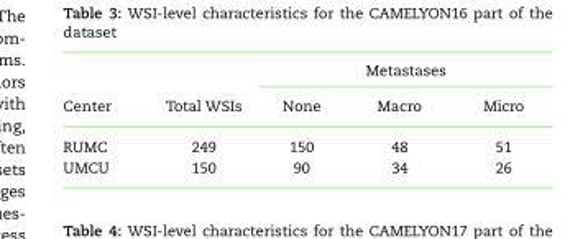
<table><thead><tr><td rowspan="2">Center</td><td rowspan="2">Total WSIs</td><td colspan="3">Metastases</td></tr><tr><td>None</td><td>Macro</td><td>Micro</td></tr></thead><tbody><tr><td>RUMC</td><td>249</td><td>150</td><td>48</td><td>51</td></tr><tr><td>UMCU</td><td>150</td><td>90</td><td>34</td><td>26</td></tr></tbody></table>